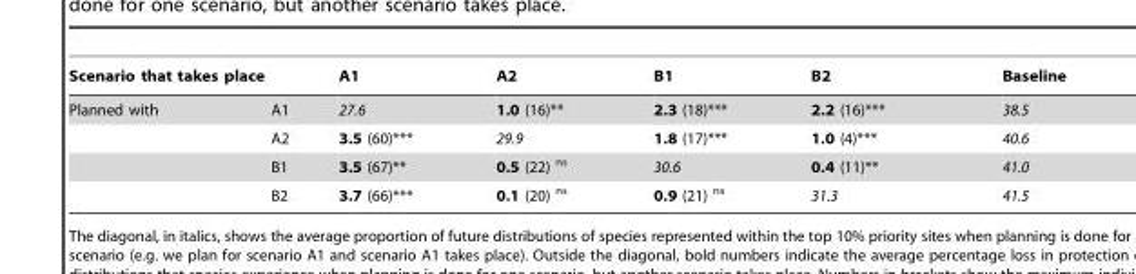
<table><thead><tr><td colspan="2">Scenario that takes place</td><td rowspan="2">A1 27.6</td><td rowspan="2">A2 1.0 (16)**</td><td rowspan="2">B1 2.3 (18)***</td><td rowspan="2">B2 2.2 (16)***</td><td rowspan="2">Baseline 38.5</td></tr><tr><td>Planned with</td><td>A1</td></tr></thead><tbody><tr><td></td><td>A2</td><td>3.5 (60)***</td><td>29.9</td><td>1.8 (17)***</td><td>1.0 (4)***</td><td>40.6</td></tr><tr><td></td><td>B1</td><td>3.5 (67)**</td><td>0.5 (22) <sup>ns</sup></td><td>30.6</td><td>0.4 (11)**</td><td>41.0</td></tr><tr><td></td><td>B2</td><td>3.7 (66)***</td><td>0.1 (20) <sup>ns</sup></td><td>0.9 (21) <sup>ns</sup></td><td>31.3</td><td>41.5</td></tr></tbody></table>